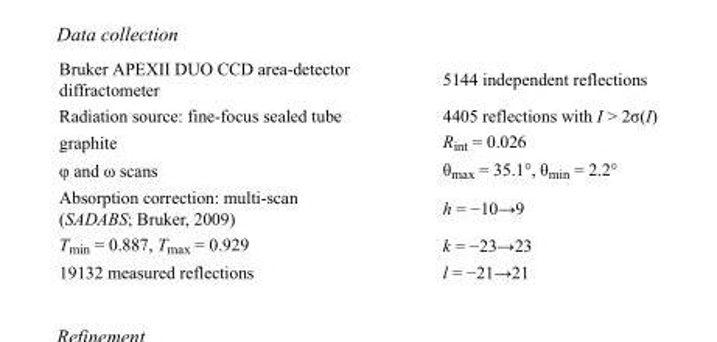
<table><tbody><tr><td>Bruker APEXII DUO CCD area-detector diffractometer</td><td>5144 independent reflections</td></tr><tr><td>Radiation source: fine-focus sealed tube</td><td>4405 reflections with I &gt; 2σ(I)</td></tr><tr><td>graphite</td><td>R<sub>int</sub> = 0.026</td></tr><tr><td>φ and ω scans</td><td>θ<sub>max</sub> = 35.1°, θ<sub>min</sub> = 2.2°</td></tr><tr><td>Absorption correction: multi-scan (SADABS; Bruker, 2009)</td><td>h = −10→9</td></tr><tr><td>T<sub>min</sub> = 0.887, T<sub>max</sub> = 0.929</td><td>k = −23→23</td></tr><tr><td>19132 measured reflections</td><td>l = −21→21</td></tr></tbody></table>